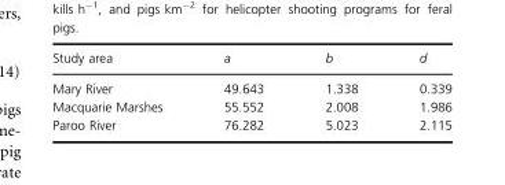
<table><thead><tr><td>Study area</td><td>a</td><td>b</td><td>d</td></tr></thead><tbody><tr><td>Mary River</td><td>49.643</td><td>1.338</td><td>0.339</td></tr><tr><td>Macquarie Marshes</td><td>55.552</td><td>2.008</td><td>1.986</td></tr><tr><td>Paroo River</td><td>76.282</td><td>5.023</td><td>2.115</td></tr></tbody></table>